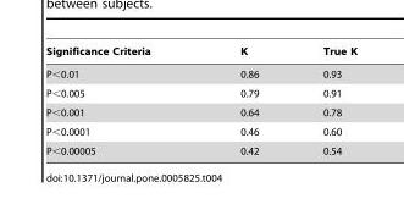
<table><thead><tr><td>Significance Criteria</td><td>K</td><td>True K</td></tr></thead><tbody><tr><td>P&lt;0.01</td><td>0.86</td><td>0.93</td></tr><tr><td>P&lt;0.005</td><td>0.79</td><td>0.91</td></tr><tr><td>P&lt;0.001</td><td>0.64</td><td>0.78</td></tr><tr><td>P&lt;0.0001</td><td>0.46</td><td>0.60</td></tr><tr><td>P&lt;0.00005</td><td>0.42</td><td>0.54</td></tr></tbody></table>